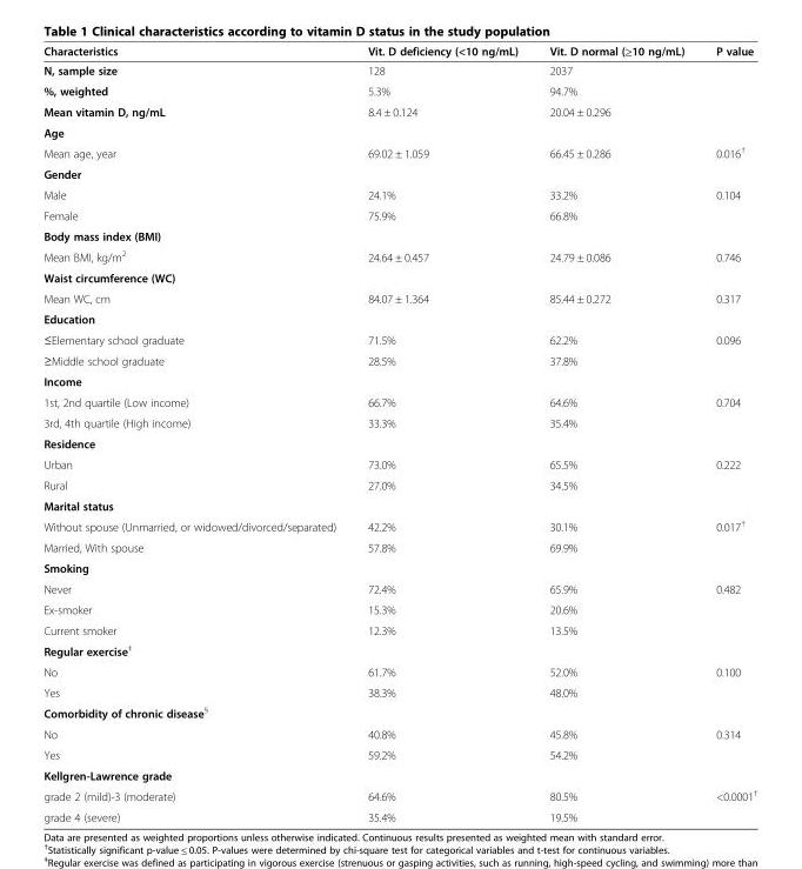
<table><thead><tr><td>Characteristics</td><td>Vit. D deficiency (&lt;10 ng/mL)</td><td>Vit. D normal (≥10 ng/mL)</td><td>P value</td></tr></thead><tbody><tr><td>N, sample size</td><td>128</td><td>2037</td><td></td></tr><tr><td>%, weighted</td><td>5.3%</td><td>94.7%</td><td></td></tr><tr><td>Mean vitamin D, ng/mL</td><td>8.4 ± 0.124</td><td>20.04 ± 0.296</td><td></td></tr><tr><td colspan="4">Age</td></tr><tr><td>Mean age, year</td><td>69.02 ± 1.059</td><td>66.45 ± 0.286</td><td>0.016<sup>†</sup></td></tr><tr><td colspan="4">Gender</td></tr><tr><td>Male</td><td>24.1%</td><td>33.2%</td><td>0.104</td></tr><tr><td>Female</td><td>75.9%</td><td>66.8%</td><td></td></tr><tr><td colspan="4">Body mass index (BMI)</td></tr><tr><td>Mean BMI, kg/m<sup>2</sup></td><td>24.64 ± 0.457</td><td>24.79 ± 0.086</td><td>0.746</td></tr><tr><td colspan="4">Waist circumference (WC)</td></tr><tr><td>Mean WC, cm</td><td>84.07 ± 1.364</td><td>85.44 ± 0.272</td><td>0.317</td></tr><tr><td colspan="4">Education</td></tr><tr><td>≤Elementary school graduate</td><td>71.5%</td><td>62.2%</td><td>0.096</td></tr><tr><td>≥Middle school graduate</td><td>28.5%</td><td>37.8%</td><td></td></tr><tr><td colspan="4">Income</td></tr><tr><td>1st, 2nd quartile (Low income)</td><td>66.7%</td><td>64.6%</td><td>0.704</td></tr><tr><td>3rd, 4th quartile (High income)</td><td>33.3%</td><td>35.4%</td><td></td></tr><tr><td colspan="4">Residence</td></tr><tr><td>Urban</td><td>73.0%</td><td>65.5%</td><td>0.222</td></tr><tr><td>Rural</td><td>27.0%</td><td>34.5%</td><td></td></tr><tr><td colspan="4">Marital status</td></tr><tr><td>Without spouse (Unmarried, or widowed/divorced/separated)</td><td>42.2%</td><td>30.1%</td><td>0.017<sup>†</sup></td></tr><tr><td>Married, With spouse</td><td>57.8%</td><td>69.9%</td><td></td></tr><tr><td colspan="4">Smoking</td></tr><tr><td>Never</td><td>72.4%</td><td>65.9%</td><td>0.482</td></tr><tr><td>Ex-smoker</td><td>15.3%</td><td>20.6%</td><td></td></tr><tr><td>Current smoker</td><td>12.3%</td><td>13.5%</td><td></td></tr><tr><td colspan="4">Regular exercise<sup>‡</sup></td></tr><tr><td>No</td><td>61.7%</td><td>52.0%</td><td>0.100</td></tr><tr><td>Yes</td><td>38.3%</td><td>48.0%</td><td></td></tr><tr><td colspan="4">Comorbidity of chronic disease<sup>§</sup></td></tr><tr><td>No</td><td>40.8%</td><td>45.8%</td><td>0.314</td></tr><tr><td>Yes</td><td>59.2%</td><td>54.2%</td><td></td></tr><tr><td colspan="4">Kellgren-Lawrence grade</td></tr><tr><td>grade 2 (mild)-3 (moderate)</td><td>64.6%</td><td>80.5%</td><td>&lt;0.0001<sup>†</sup></td></tr><tr><td>grade 4 (severe)</td><td>35.4%</td><td>19.5%</td><td></td></tr></tbody></table>